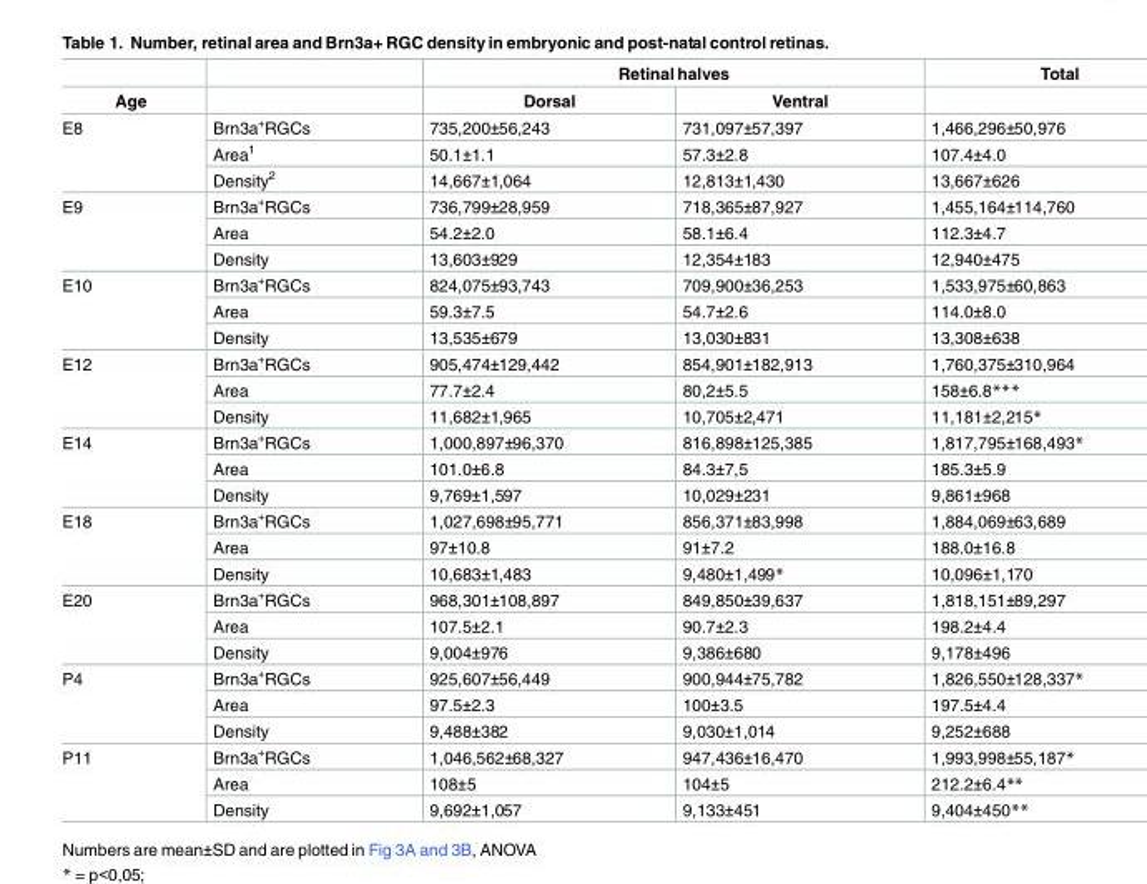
<table><thead><tr><td rowspan="2">Age</td><td rowspan="2"></td><td colspan="2">Retinal halves</td><td rowspan="2">Total</td></tr><tr><td>Dorsal</td><td>Ventral</td></tr></thead><tbody><tr><td rowspan="3">E8</td><td>Brn3a<sup>+</sup>RGCs</td><td>735,200±56,243</td><td>731,097±57,397</td><td>1,466,296±50,976</td></tr><tr><td>Area<sup>1</sup></td><td>50.1±1.1</td><td>57.3±2.8</td><td>107.4±4.0</td></tr><tr><td>Density<sup>2</sup></td><td>14,667±1,064</td><td>12,813±1,430</td><td>13,667±626</td></tr><tr><td rowspan="3">E9</td><td>Brn3a<sup>+</sup>RGCs</td><td>736,799±28,959</td><td>718,365±87,927</td><td>1,455,164±114,760</td></tr><tr><td>Area</td><td>54.2±2.0</td><td>58.1±6.4</td><td>112.3±4.7</td></tr><tr><td>Density</td><td>13,603±929</td><td>12,354±183</td><td>12,940±475</td></tr><tr><td rowspan="3">E10</td><td>Brn3a<sup>+</sup>RGCs</td><td>824,075±93,743</td><td>709,900±36,253</td><td>1,533,975±60,863</td></tr><tr><td>Area</td><td>59.3±7.5</td><td>54.7±2.6</td><td>114.0±8.0</td></tr><tr><td>Density</td><td>13,535±679</td><td>13,030±831</td><td>13,308±638</td></tr><tr><td rowspan="3">E12</td><td>Brn3a<sup>+</sup>RGCs</td><td>905,474±129,442</td><td>854,901±182,913</td><td>1,760,375±310,964</td></tr><tr><td>Area</td><td>77.7±2.4</td><td>80,2±5.5</td><td>158±6.8***</td></tr><tr><td>Density</td><td>11,682±1,965</td><td>10,705±2,471</td><td>11,181±2,215*</td></tr><tr><td rowspan="3">E14</td><td>Brn3a<sup>+</sup>RGCs</td><td>1,000,897±96,370</td><td>816,898±125,385</td><td>1,817,795±168,493*</td></tr><tr><td>Area</td><td>101.0±6.8</td><td>84.3±7,5</td><td>185.3±5.9</td></tr><tr><td>Density</td><td>9,769±1,597</td><td>10,029±231</td><td>9,861±968</td></tr><tr><td rowspan="3">E18</td><td>Brn3a<sup>+</sup>RGCs</td><td>1,027,698±95,771</td><td>856,371±83,998</td><td>1,884,069±63,689</td></tr><tr><td>Area</td><td>97±10.8</td><td>91±7.2</td><td>188.0±16.8</td></tr><tr><td>Density</td><td>10,683±1,483</td><td>9,480±1,499*</td><td>10,096±1,170</td></tr><tr><td rowspan="3">E20</td><td>Brn3a<sup>+</sup>RGCs</td><td>968,301±108,897</td><td>849,850±39,637</td><td>1,818,151±89,297</td></tr><tr><td>Area</td><td>107.5±2.1</td><td>90.7±2.3</td><td>198.2±4.4</td></tr><tr><td>Density</td><td>9,004±976</td><td>9,386±680</td><td>9,178±496</td></tr><tr><td rowspan="3">P4</td><td>Brn3a<sup>+</sup>RGCs</td><td>925,607±56,449</td><td>900,944±75,782</td><td>1,826,550±128,337*</td></tr><tr><td>Area</td><td>97.5±2.3</td><td>100±3.5</td><td>197.5±4.4</td></tr><tr><td>Density</td><td>9,488±382</td><td>9,030±1,014</td><td>9,252±688</td></tr><tr><td rowspan="3">P11</td><td>Brn3a<sup>+</sup>RGCs</td><td>1,046,562±68,327</td><td>947,436±16,470</td><td>1,993,998±55,187*</td></tr><tr><td>Area</td><td>108±5</td><td>104±5</td><td>212.2±6.4**</td></tr><tr><td>Density</td><td>9,692±1,057</td><td>9,133±451</td><td>9,404±450**</td></tr></tbody></table>